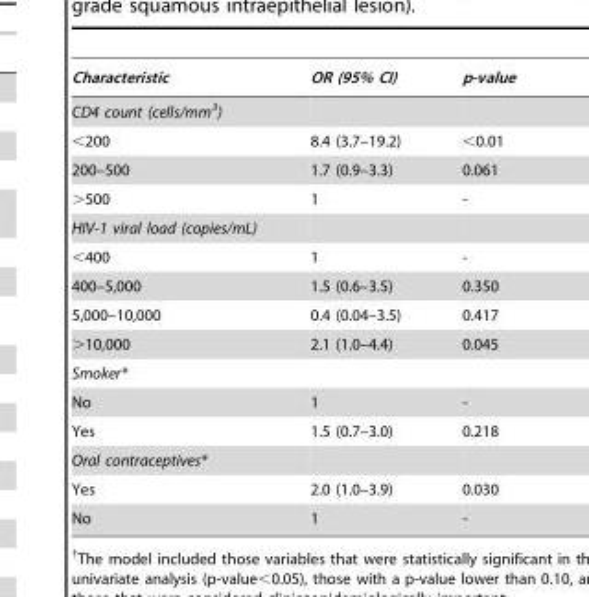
<table><thead><tr><td>Characteristic</td><td>OR (95% CI)</td><td>p-value</td></tr></thead><tbody><tr><td colspan="3">CD4 count (cells/mm<sup>3</sup>)</td></tr><tr><td>&lt;200</td><td>8.4 (3.7–19.2)</td><td>&lt;0.01</td></tr><tr><td>200–500</td><td>1.7 (0.9–3.3)</td><td>0.061</td></tr><tr><td>&gt;500</td><td>1</td><td>-</td></tr><tr><td colspan="3">HIV-1 viral load (copies/mL)</td></tr><tr><td>&lt;400</td><td>1</td><td>-</td></tr><tr><td>400–5,000</td><td>1.5 (0.6–3.5)</td><td>0.350</td></tr><tr><td>5,000–10,000</td><td>0.4 (0.04–3.5)</td><td>0.417</td></tr><tr><td>&gt;10,000</td><td>2.1 (1.0–4.4)</td><td>0.045</td></tr><tr><td colspan="3">Smoker*</td></tr><tr><td>No</td><td>1</td><td>-</td></tr><tr><td>Yes</td><td>1.5 (0.7–3.0)</td><td>0.218</td></tr><tr><td colspan="3">Oral contraceptives*</td></tr><tr><td>Yes</td><td>2.0 (1.0–3.9)</td><td>0.030</td></tr><tr><td>No</td><td>1</td><td>-</td></tr></tbody></table>